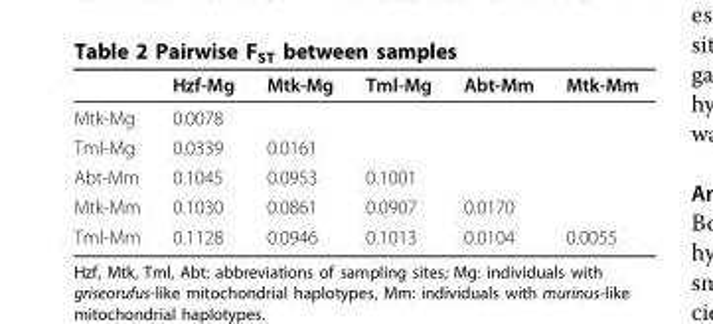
<table><thead><tr><td></td><td>Hzf-Mg</td><td>Mtk-Mg</td><td>Tml-Mg</td><td>Abt-Mm</td><td>Mtk-Mm</td></tr></thead><tbody><tr><td>Mtk-Mg</td><td>0.0078</td><td></td><td></td><td></td><td></td></tr><tr><td>Tml-Mg</td><td>0.0339</td><td>0.0161</td><td></td><td></td><td></td></tr><tr><td>Abt-Mm</td><td>0.1045</td><td>0.0953</td><td>0.1001</td><td></td><td></td></tr><tr><td>Mtk-Mm</td><td>0.1030</td><td>0.0861</td><td>0.0907</td><td>0.0170</td><td></td></tr><tr><td>Tml-Mm</td><td>0.1128</td><td>0.0946</td><td>0.1013</td><td>0.0104</td><td>0.0055</td></tr></tbody></table>